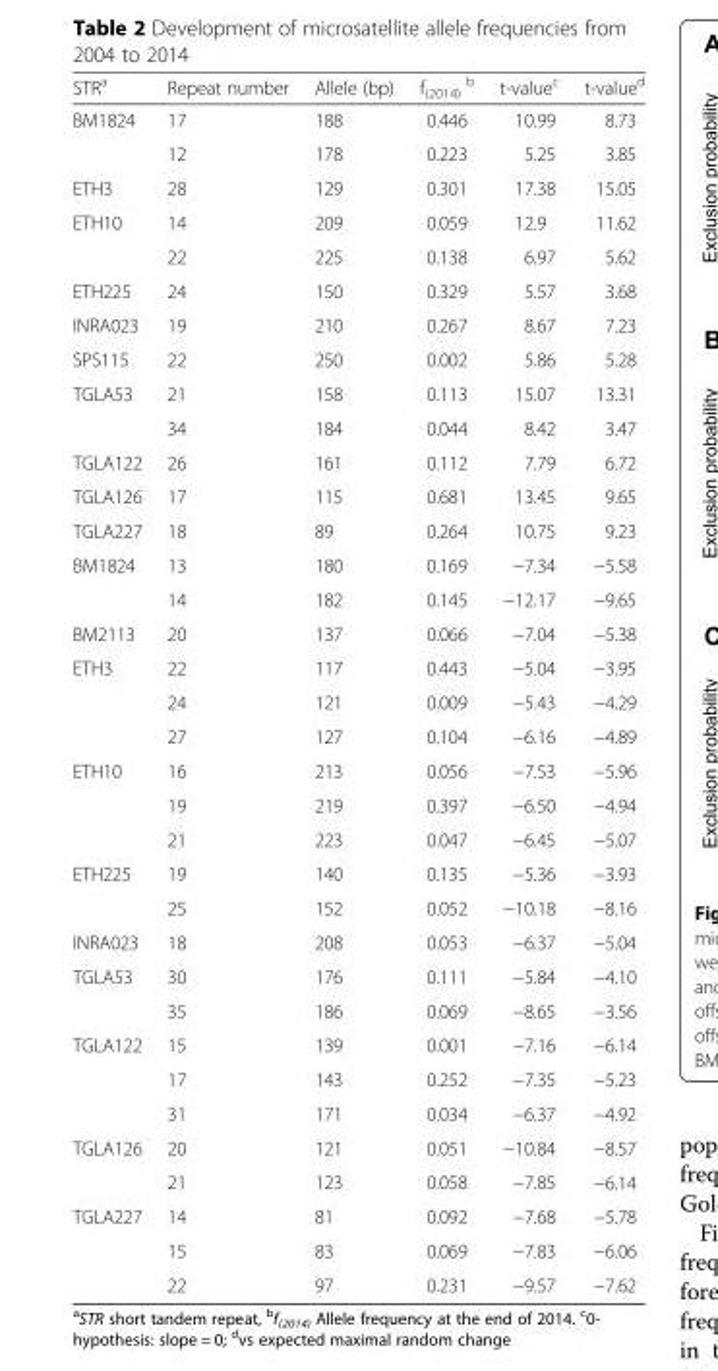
<table><thead><tr><td>STR<sup>a</sup></td><td>Repeat number</td><td>Allele (bp)</td><td>f<sub>(2014)</sub> <sup>b</sup></td><td>t-value<sup>c</sup></td><td>t-value<sup>d</sup></td></tr></thead><tbody><tr><td rowspan="2">BM1824</td><td>17</td><td>188</td><td>0.446</td><td>10.99</td><td>8.73</td></tr><tr><td>12</td><td>178</td><td>0.223</td><td>5.25</td><td>3.85</td></tr><tr><td>ETH3</td><td>28</td><td>129</td><td>0.301</td><td>17.38</td><td>15.05</td></tr><tr><td rowspan="2">ETH10</td><td>14</td><td>209</td><td>0.059</td><td>12.9</td><td>11.62</td></tr><tr><td>22</td><td>225</td><td>0.138</td><td>6.97</td><td>5.62</td></tr><tr><td>ETH225</td><td>24</td><td>150</td><td>0.329</td><td>5.57</td><td>3.68</td></tr><tr><td>INRA023</td><td>19</td><td>210</td><td>0.267</td><td>8.67</td><td>7.23</td></tr><tr><td>SPS115</td><td>22</td><td>250</td><td>0.002</td><td>5.86</td><td>5.28</td></tr><tr><td rowspan="2">TGLA53</td><td>21</td><td>158</td><td>0.113</td><td>15.07</td><td>13.31</td></tr><tr><td>34</td><td>184</td><td>0.044</td><td>8.42</td><td>3.47</td></tr><tr><td>TGLA122</td><td>26</td><td>161</td><td>0.112</td><td>7.79</td><td>6.72</td></tr><tr><td>TGLA126</td><td>17</td><td>115</td><td>0.681</td><td>13.45</td><td>9.65</td></tr><tr><td>TGLA227</td><td>18</td><td>89</td><td>0.264</td><td>10.75</td><td>9.23</td></tr><tr><td rowspan="2">BM1824</td><td>13</td><td>180</td><td>0.169</td><td>−7.34</td><td>−5.58</td></tr><tr><td>14</td><td>182</td><td>0.145</td><td>−12.17</td><td>−9.65</td></tr><tr><td>BM2113</td><td>20</td><td>137</td><td>0.066</td><td>−7.04</td><td>−5.38</td></tr><tr><td rowspan="3">ETH3</td><td>22</td><td>117</td><td>0.443</td><td>−5.04</td><td>−3.95</td></tr><tr><td>24</td><td>121</td><td>0.009</td><td>−5.43</td><td>−4.29</td></tr><tr><td>27</td><td>127</td><td>0.104</td><td>−6.16</td><td>−4.89</td></tr><tr><td rowspan="3">ETH10</td><td>16</td><td>213</td><td>0.056</td><td>−7.53</td><td>−5.96</td></tr><tr><td>19</td><td>219</td><td>0.397</td><td>−6.50</td><td>−4.94</td></tr><tr><td>21</td><td>223</td><td>0.047</td><td>−6.45</td><td>−5.07</td></tr><tr><td rowspan="2">ETH225</td><td>19</td><td>140</td><td>0.135</td><td>−5.36</td><td>−3.93</td></tr><tr><td>25</td><td>152</td><td>0.052</td><td>−10.18</td><td>−8.16</td></tr><tr><td>INRA023</td><td>18</td><td>208</td><td>0.053</td><td>−6.37</td><td>−5.04</td></tr><tr><td rowspan="2">TGLA53</td><td>30</td><td>176</td><td>0.111</td><td>−5.84</td><td>−4.10</td></tr><tr><td>35</td><td>186</td><td>0.069</td><td>−8.65</td><td>−3.56</td></tr><tr><td rowspan="3">TGLA122</td><td>15</td><td>139</td><td>0.001</td><td>−7.16</td><td>−6.14</td></tr><tr><td>17</td><td>143</td><td>0.252</td><td>−7.35</td><td>−5.23</td></tr><tr><td>31</td><td>171</td><td>0.034</td><td>−6.37</td><td>−4.92</td></tr><tr><td rowspan="2">TGLA126</td><td>20</td><td>121</td><td>0.051</td><td>−10.84</td><td>−8.57</td></tr><tr><td>21</td><td>123</td><td>0.058</td><td>−7.85</td><td>−6.14</td></tr><tr><td rowspan="3">TGLA227</td><td>14</td><td>81</td><td>0.092</td><td>−7.68</td><td>−5.78</td></tr><tr><td>15</td><td>83</td><td>0.069</td><td>−7.83</td><td>−6.06</td></tr><tr><td>22</td><td>97</td><td>0.231</td><td>−9.57</td><td>−7.62</td></tr></tbody></table>